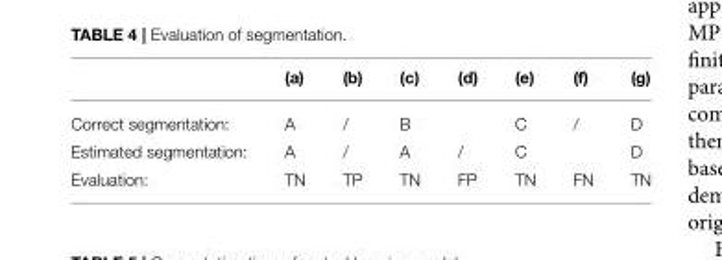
<table><thead><tr><td></td><td>(a)</td><td>(b)</td><td>(c)</td><td>(d)</td><td>(e)</td><td>(f)</td><td>(g)</td></tr></thead><tbody><tr><td>Correct segmentation:</td><td>A</td><td>/</td><td>B</td><td></td><td>C</td><td>/</td><td>D</td></tr><tr><td>Estimated segmentation:</td><td>A</td><td>/</td><td>A</td><td>/</td><td>C</td><td></td><td>D</td></tr><tr><td>Evaluation:</td><td>TN</td><td>TP</td><td>TN</td><td>FP</td><td>TN</td><td>FN</td><td>TN</td></tr></tbody></table>